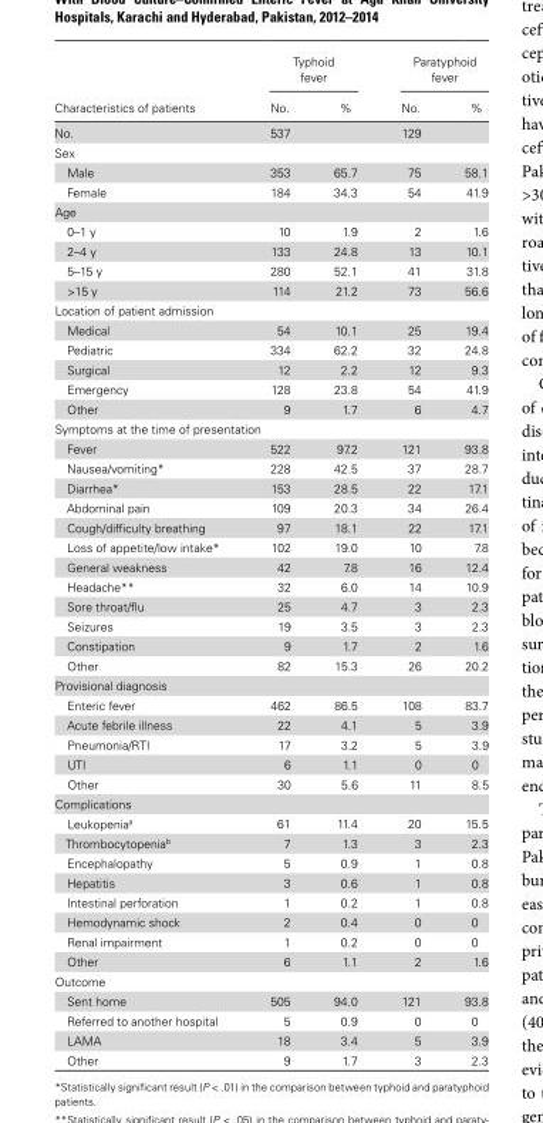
<table><thead><tr><td rowspan="2">Characteristics of patients</td><td colspan="2">Typhoid fever</td><td colspan="2">Paratyphoid fever</td></tr><tr><td>No.</td><td>%</td><td>No.</td><td>%</td></tr></thead><tbody><tr><td>No.</td><td colspan="2">537</td><td colspan="2">129</td></tr><tr><td colspan="5">Sex</td></tr><tr><td>Male</td><td>353</td><td>65.7</td><td>75</td><td>58.1</td></tr><tr><td>Female</td><td>184</td><td>34.3</td><td>54</td><td>41.9</td></tr><tr><td colspan="5">Age</td></tr><tr><td>0–1 y</td><td>10</td><td>1.9</td><td>2</td><td>1.6</td></tr><tr><td>2–4 y</td><td>133</td><td>24.8</td><td>13</td><td>10.1</td></tr><tr><td>5–15 y</td><td>280</td><td>52.1</td><td>41</td><td>31.8</td></tr><tr><td>&gt;15 y</td><td>114</td><td>21.2</td><td>73</td><td>56.6</td></tr><tr><td colspan="5">Location of patient admission</td></tr><tr><td>Medical</td><td>54</td><td>10.1</td><td>25</td><td>19.4</td></tr><tr><td>Pediatric</td><td>334</td><td>62.2</td><td>32</td><td>24.8</td></tr><tr><td>Surgical</td><td>12</td><td>2.2</td><td>12</td><td>9.3</td></tr><tr><td>Emergency</td><td>128</td><td>23.8</td><td>54</td><td>41.9</td></tr><tr><td>Other</td><td>9</td><td>1.7</td><td>6</td><td>4.7</td></tr><tr><td colspan="5">Symptoms at the time of presentation</td></tr><tr><td>Fever</td><td>522</td><td>97.2</td><td>121</td><td>93.8</td></tr><tr><td>Nausea/vomiting*</td><td>228</td><td>42.5</td><td>37</td><td>28.7</td></tr><tr><td>Diarrhea*</td><td>153</td><td>28.5</td><td>22</td><td>17.1</td></tr><tr><td>Abdominal pain</td><td>109</td><td>20.3</td><td>34</td><td>26.4</td></tr><tr><td>Cough/difficulty breathing</td><td>97</td><td>18.1</td><td>22</td><td>17.1</td></tr><tr><td>Loss of appetite/low intake*</td><td>102</td><td>19.0</td><td>10</td><td>7.8</td></tr><tr><td>General weakness</td><td>42</td><td>7.8</td><td>16</td><td>12.4</td></tr><tr><td>Headache**</td><td>32</td><td>6.0</td><td>14</td><td>10.9</td></tr><tr><td>Sore throat/flu</td><td>25</td><td>4.7</td><td>3</td><td>2.3</td></tr><tr><td>Seizures</td><td>19</td><td>3.5</td><td>3</td><td>2.3</td></tr><tr><td>Constipation</td><td>9</td><td>1.7</td><td>2</td><td>1.6</td></tr><tr><td>Other</td><td>82</td><td>15.3</td><td>26</td><td>20.2</td></tr><tr><td colspan="5">Provisional diagnosis</td></tr><tr><td>Enteric fever</td><td>462</td><td>86.5</td><td>108</td><td>83.7</td></tr><tr><td>Acute febrile illness</td><td>22</td><td>4.1</td><td>5</td><td>3.9</td></tr><tr><td>Pneumonia/RTI</td><td>17</td><td>3.2</td><td>5</td><td>3.9</td></tr><tr><td>UTI</td><td>6</td><td>1.1</td><td>0</td><td>0</td></tr><tr><td>Other</td><td>30</td><td>5.6</td><td>11</td><td>8.5</td></tr><tr><td colspan="5">Complications</td></tr><tr><td>Leukopenia<sup>a</sup></td><td>61</td><td>11.4</td><td>20</td><td>15.5</td></tr><tr><td>Thrombocytopenia<sup>b</sup></td><td>7</td><td>1.3</td><td>3</td><td>2.3</td></tr><tr><td>Encephalopathy</td><td>5</td><td>0.9</td><td>1</td><td>0.8</td></tr><tr><td>Hepatitis</td><td>3</td><td>0.6</td><td>1</td><td>0.8</td></tr><tr><td>Intestinal perforation</td><td>1</td><td>0.2</td><td>1</td><td>0.8</td></tr><tr><td>Hemodynamic shock</td><td>2</td><td>0.4</td><td>0</td><td>0</td></tr><tr><td>Renal impairment</td><td>1</td><td>0.2</td><td>0</td><td>0</td></tr><tr><td>Other</td><td>6</td><td>1.1</td><td>2</td><td>1.6</td></tr><tr><td colspan="5">Outcome</td></tr><tr><td>Sent home</td><td>505</td><td>94.0</td><td>121</td><td>93.8</td></tr><tr><td>Referred to another hospital</td><td>5</td><td>0.9</td><td>0</td><td>0</td></tr><tr><td>LAMA</td><td>18</td><td>3.4</td><td>5</td><td>3.9</td></tr><tr><td>Other</td><td>9</td><td>1.7</td><td>3</td><td>2.3</td></tr></tbody></table>